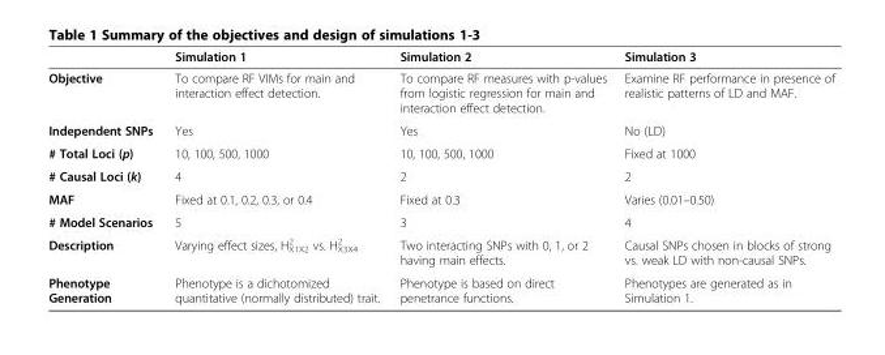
<table><thead><tr><td></td><td>Simulation 1</td><td>Simulation 2</td><td>Simulation 3</td></tr></thead><tbody><tr><td>Objective</td><td>To compare RF VIMs for main and interaction effect detection.</td><td>To compare RF measures with p-values from logistic regression for main and interaction effect detection.</td><td>Examine RF performance in presence of realistic patterns of LD and MAF.</td></tr><tr><td>Independent SNPs</td><td>Yes</td><td>Yes</td><td>No (LD)</td></tr><tr><td># Total Loci (p)</td><td>10, 100, 500, 1000</td><td>10, 100, 500, 1000</td><td>Fixed at 1000</td></tr><tr><td># Causal Loci (k)</td><td>4</td><td>2</td><td>2</td></tr><tr><td>MAF</td><td>Fixed at 0.1, 0.2, 0.3, or 0.4</td><td>Fixed at 0.3</td><td>Varies (0.01–0.50)</td></tr><tr><td># Model Scenarios</td><td>5</td><td>3</td><td>4</td></tr><tr><td>Description</td><td>Varying effect sizes, H<sub>X1X2</sub> <sup>2</sup> vs. H<sub>X3X4</sub> <sup>2</sup></td><td>Two interacting SNPs with 0, 1, or 2 having main effects.</td><td>Causal SNPs chosen in blocks of strong vs. weak LD with non-causal SNPs.</td></tr><tr><td>Phenotype Generation</td><td>Phenotype is a dichotomized quantitative (normally distributed) trait.</td><td>Phenotype is based on direct penetrance functions.</td><td>Phenotypes are generated as in Simulation 1.</td></tr></tbody></table>